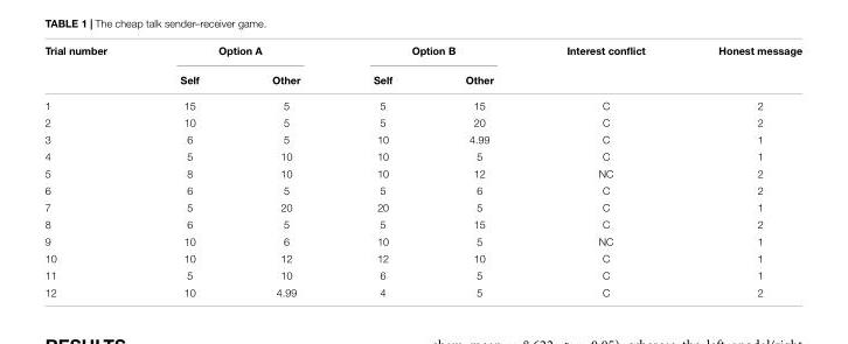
<table><thead><tr><td rowspan="2">Trial number</td><td colspan="2">Option A</td><td colspan="2">Option B</td><td rowspan="2">Interest conflict</td><td rowspan="2">Honest message</td></tr><tr><td>Self</td><td>Other</td><td>Self</td><td>Other</td></tr></thead><tbody><tr><td>1</td><td>15</td><td>5</td><td>5</td><td>15</td><td>C</td><td>2</td></tr><tr><td>2</td><td>10</td><td>5</td><td>5</td><td>20</td><td>C</td><td>2</td></tr><tr><td>3</td><td>6</td><td>5</td><td>10</td><td>4.99</td><td>C</td><td>1</td></tr><tr><td>4</td><td>5</td><td>10</td><td>10</td><td>5</td><td>C</td><td>1</td></tr><tr><td>5</td><td>8</td><td>10</td><td>10</td><td>12</td><td>NC</td><td>2</td></tr><tr><td>6</td><td>6</td><td>5</td><td>5</td><td>6</td><td>C</td><td>2</td></tr><tr><td>7</td><td>5</td><td>20</td><td>20</td><td>5</td><td>C</td><td>1</td></tr><tr><td>8</td><td>6</td><td>5</td><td>5</td><td>15</td><td>C</td><td>2</td></tr><tr><td>9</td><td>10</td><td>6</td><td>10</td><td>5</td><td>NC</td><td>1</td></tr><tr><td>10</td><td>10</td><td>12</td><td>12</td><td>10</td><td>C</td><td>1</td></tr><tr><td>11</td><td>5</td><td>10</td><td>6</td><td>5</td><td>C</td><td>1</td></tr><tr><td>12</td><td>10</td><td>4.99</td><td>4</td><td>5</td><td>C</td><td>2</td></tr></tbody></table>